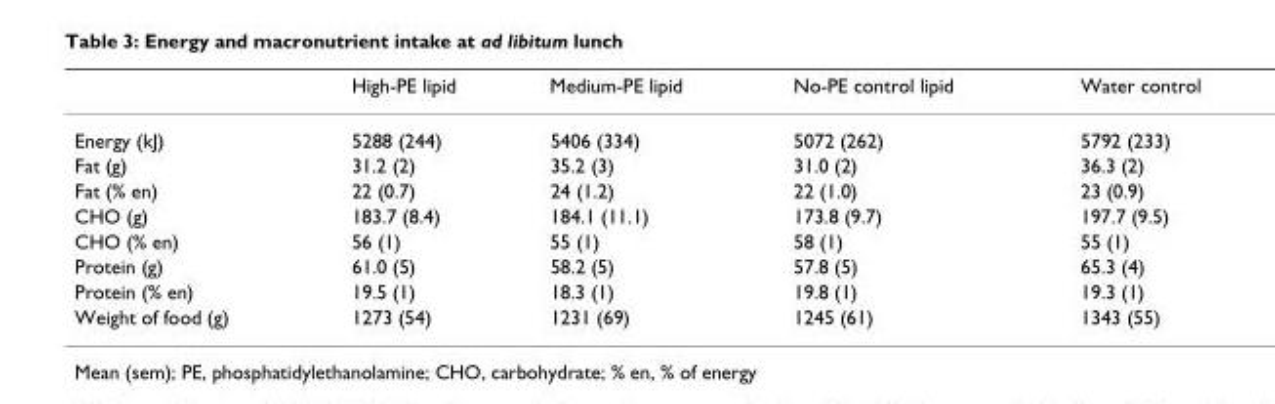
<table><thead><tr><td></td><td>High-PE lipid</td><td>Medium-PE lipid</td><td>No-PE control lipid</td><td>Water control</td></tr></thead><tbody><tr><td>Energy (kJ)</td><td>5288 (244)</td><td>5406 (334)</td><td>5072 (262)</td><td>5792 (233)</td></tr><tr><td>Fat (g)</td><td>31.2 (2)</td><td>35.2 (3)</td><td>31.0 (2)</td><td>36.3 (2)</td></tr><tr><td>Fat (% en)</td><td>22 (0.7)</td><td>24 (1.2)</td><td>22 (1.0)</td><td>23 (0.9)</td></tr><tr><td>CHO (g)</td><td>183.7 (8.4)</td><td>184.1 (11.1)</td><td>173.8 (9.7)</td><td>197.7 (9.5)</td></tr><tr><td>CHO (% en)</td><td>56 (1)</td><td>55 (1)</td><td>58 (1)</td><td>55 (1)</td></tr><tr><td>Protein (g)</td><td>61.0 (5)</td><td>58.2 (5)</td><td>57.8 (5)</td><td>65.3 (4)</td></tr><tr><td>Protein (% en)</td><td>19.5 (1)</td><td>18.3 (1)</td><td>19.8 (1)</td><td>19.3 (1)</td></tr><tr><td>Weight of food (g)</td><td>1273 (54)</td><td>1231 (69)</td><td>1245 (61)</td><td>1343 (55)</td></tr></tbody></table>